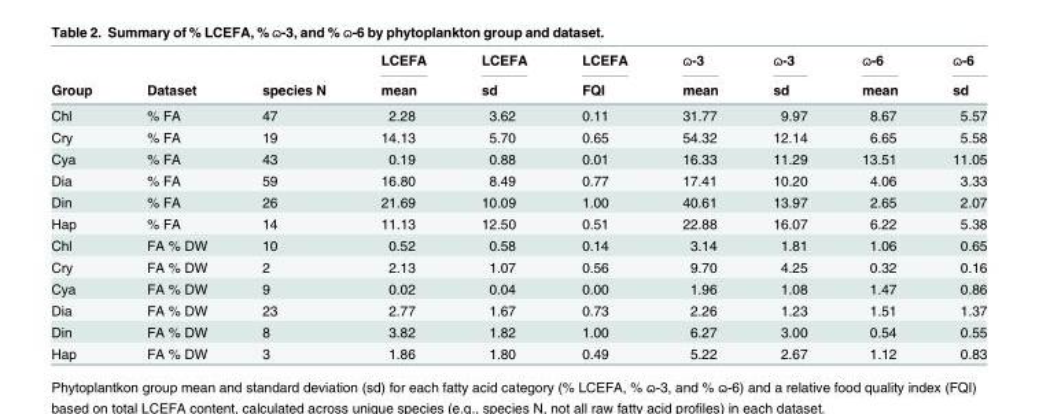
<table><thead><tr><td rowspan="2">Group</td><td rowspan="2">Dataset</td><td rowspan="2">species N</td><td rowspan="2">LCEFA mean</td><td rowspan="2">LCEFA sd</td><td rowspan="2">LCEFA FQI</td><td rowspan="2">ɷ-3 mean</td><td rowspan="2">ɷ-3 sd</td><td rowspan="2">ɷ-6 mean</td><td rowspan="2">ɷ-6 sd</td></tr><tr></tr></thead><tbody><tr><td>Chl</td><td>% FA</td><td>47</td><td>2.28</td><td>3.62</td><td>0.11</td><td>31.77</td><td>9.97</td><td>8.67</td><td>5.57</td></tr><tr><td>Cry</td><td>% FA</td><td>19</td><td>14.13</td><td>5.70</td><td>0.65</td><td>54.32</td><td>12.14</td><td>6.65</td><td>5.58</td></tr><tr><td>Cya</td><td>% FA</td><td>43</td><td>0.19</td><td>0.88</td><td>0.01</td><td>16.33</td><td>11.29</td><td>13.51</td><td>11.05</td></tr><tr><td>Dia</td><td>% FA</td><td>59</td><td>16.80</td><td>8.49</td><td>0.77</td><td>17.41</td><td>10.20</td><td>4.06</td><td>3.33</td></tr><tr><td>Din</td><td>% FA</td><td>26</td><td>21.69</td><td>10.09</td><td>1.00</td><td>40.61</td><td>13.97</td><td>2.65</td><td>2.07</td></tr><tr><td>Hap</td><td>% FA</td><td>14</td><td>11.13</td><td>12.50</td><td>0.51</td><td>22.88</td><td>16.07</td><td>6.22</td><td>5.38</td></tr><tr><td>Chl</td><td>FA % DW</td><td>10</td><td>0.52</td><td>0.58</td><td>0.14</td><td>3.14</td><td>1.81</td><td>1.06</td><td>0.65</td></tr><tr><td>Cry</td><td>FA % DW</td><td>2</td><td>2.13</td><td>1.07</td><td>0.56</td><td>9.70</td><td>4.25</td><td>0.32</td><td>0.16</td></tr><tr><td>Cya</td><td>FA % DW</td><td>9</td><td>0.02</td><td>0.04</td><td>0.00</td><td>1.96</td><td>1.08</td><td>1.47</td><td>0.86</td></tr><tr><td>Dia</td><td>FA % DW</td><td>23</td><td>2.77</td><td>1.67</td><td>0.73</td><td>2.26</td><td>1.23</td><td>1.51</td><td>1.37</td></tr><tr><td>Din</td><td>FA % DW</td><td>8</td><td>3.82</td><td>1.82</td><td>1.00</td><td>6.27</td><td>3.00</td><td>0.54</td><td>0.55</td></tr><tr><td>Hap</td><td>FA % DW</td><td>3</td><td>1.86</td><td>1.80</td><td>0.49</td><td>5.22</td><td>2.67</td><td>1.12</td><td>0.83</td></tr></tbody></table>